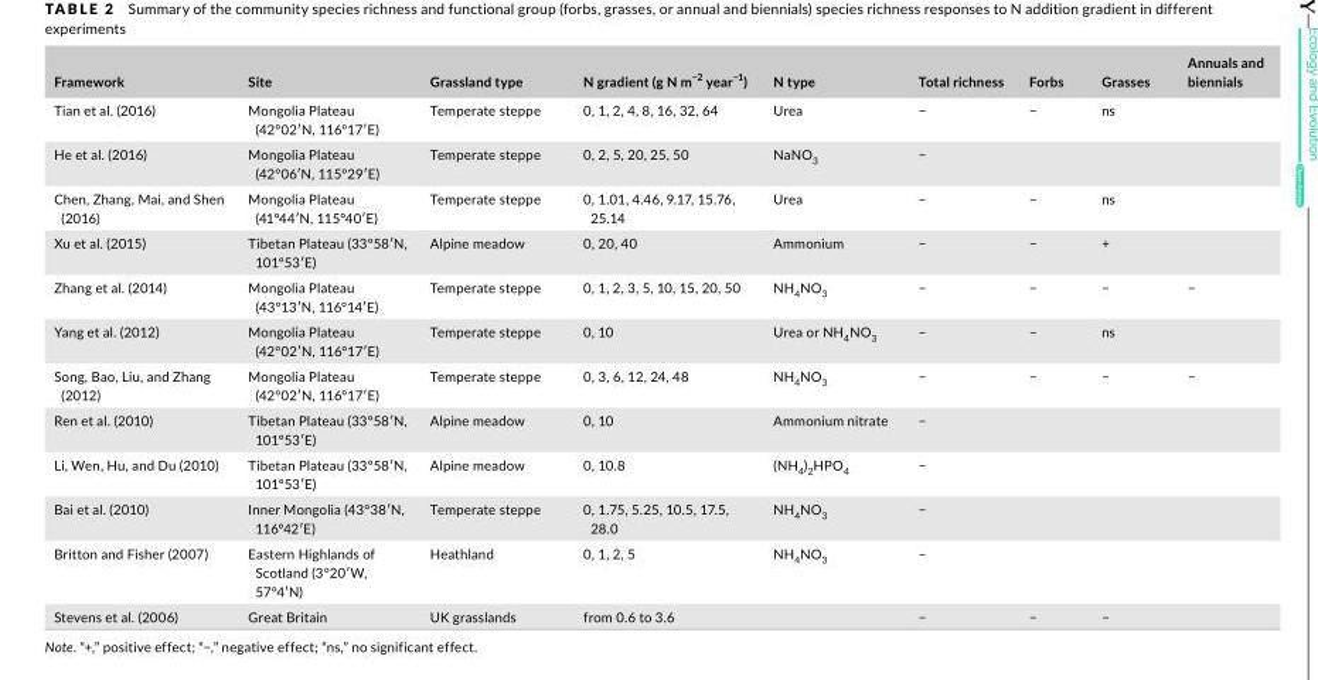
<table><thead><tr><td>Framework</td><td>Site</td><td>Grassland type</td><td>N gradient (g N m<sup>−2</sup> year<sup>−1</sup>)</td><td>N type</td><td>Total richness</td><td>Forbs</td><td>Grasses</td><td>Annuals and biennials</td></tr></thead><tbody><tr><td>Tian et al. (2016)</td><td>Mongolia Plateau (42°02′N, 116°17′E)</td><td>Temperate steppe</td><td>0, 1, 2, 4, 8, 16, 32, 64</td><td>Urea</td><td>−</td><td>−</td><td>ns</td><td></td></tr><tr><td>He et al. (2016)</td><td>Mongolia Plateau (42°06′N, 115°29′E)</td><td>Temperate steppe</td><td>0, 2, 5, 20, 25, 50</td><td>NaNO<sub>3</sub></td><td>−</td><td></td><td></td><td></td></tr><tr><td>Chen, Zhang, Mai, and Shen (2016)</td><td>Mongolia Plateau (41°44′N, 115°40′E)</td><td>Temperate steppe</td><td>0, 1.01, 4.46, 9.17, 15.76, 25.14</td><td>Urea</td><td>−</td><td>−</td><td>ns</td><td></td></tr><tr><td>Xu et al. (2015)</td><td>Tibetan Plateau (33º58′N, 101º53′E)</td><td>Alpine meadow</td><td>0, 20, 40</td><td>Ammonium</td><td>−</td><td>−</td><td>+</td><td></td></tr><tr><td>Zhang et al. (2014)</td><td>Mongolia Plateau (43°13′N, 116°14′E)</td><td>Temperate steppe</td><td>0, 1, 2, 3, 5, 10, 15, 20, 50</td><td>NH<sub>4</sub>NO<sub>3</sub></td><td>−</td><td>−</td><td>−</td><td>−</td></tr><tr><td>Yang et al. (2012)</td><td>Mongolia Plateau (42°02′N, 116°17′E)</td><td>Temperate steppe</td><td>0, 10</td><td>Urea or NH<sub>4</sub>NO<sub>3</sub></td><td>−</td><td>−</td><td>ns</td><td></td></tr><tr><td>Song, Bao, Liu, and Zhang (2012)</td><td>Mongolia Plateau (42°02′N, 116°17′E)</td><td>Temperate steppe</td><td>0, 3, 6, 12, 24, 48</td><td>NH<sub>4</sub>NO<sub>3</sub></td><td>−</td><td>−</td><td>−</td><td>−</td></tr><tr><td>Ren et al. (2010)</td><td>Tibetan Plateau (33º58′N, 101º53′E)</td><td>Alpine meadow</td><td>0, 10</td><td>Ammonium nitrate</td><td>−</td><td></td><td></td><td></td></tr><tr><td>Li, Wen, Hu, and Du (2010)</td><td>Tibetan Plateau (33º58′N, 101º53′E)</td><td>Alpine meadow</td><td>0, 10.8</td><td>(NH<sub>4</sub>)<sub>2</sub>HPO<sub>4</sub></td><td>−</td><td></td><td></td><td></td></tr><tr><td>Bai et al. (2010)</td><td>Inner Mongolia (43°38′N, 116°42′E)</td><td>Temperate steppe</td><td>0, 1.75, 5.25, 10.5, 17.5, 28.0</td><td>NH<sub>4</sub>NO<sub>3</sub></td><td>−</td><td></td><td></td><td></td></tr><tr><td>Britton and Fisher (2007)</td><td>Eastern Highlands of Scotland (3°20′W, 57°4′N)</td><td>Heathland</td><td>0, 1, 2, 5</td><td>NH<sub>4</sub>NO<sub>3</sub></td><td>−</td><td></td><td></td><td></td></tr><tr><td>Stevens et al. (2006)</td><td>Great Britain</td><td>UK grasslands</td><td>from 0.6 to 3.6</td><td></td><td>−</td><td>−</td><td>−</td><td></td></tr></tbody></table>